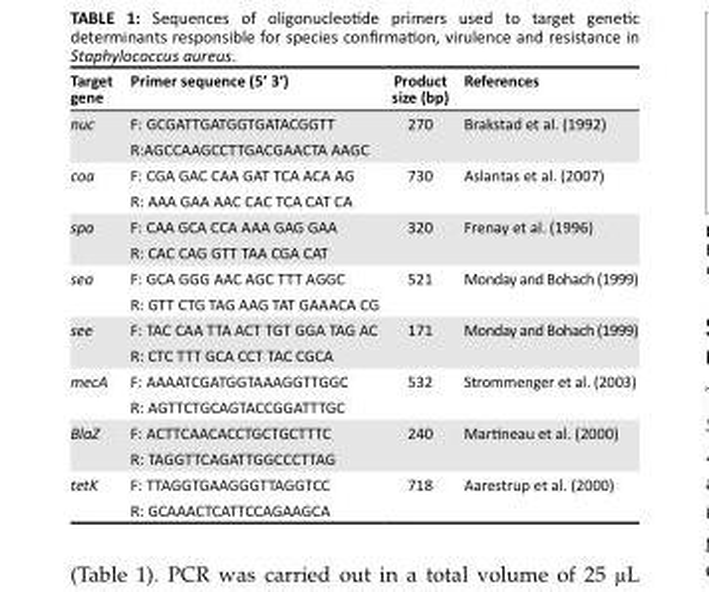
<table><thead><tr><td>Target gene</td><td>Primer sequence (5’ 3’)</td><td>Product size (bp)</td><td>References</td></tr></thead><tbody><tr><td rowspan="2">nuc</td><td>F: GCGATTGATGGTGATACGGTT</td><td rowspan="2">270</td><td rowspan="2">Brakstad et al. (1992)</td></tr><tr><td>R:AGCCAAGCCTTGACGAACTA AAGC</td></tr><tr><td rowspan="2">coa</td><td>F: CGA GAC CAA GAT TCA ACA AG</td><td rowspan="2">730</td><td rowspan="2">Aslantas et al. (2007)</td></tr><tr><td>R: AAA GAA AAC CAC TCA CAT CA</td></tr><tr><td rowspan="2">spa</td><td>F: CAA GCA CCA AAA GAG GAA</td><td rowspan="2">320</td><td rowspan="2">Frenay et al. (1996)</td></tr><tr><td>R: CAC CAG GTT TAA CGA CAT</td></tr><tr><td rowspan="2">sea</td><td>F: GCA GGG AAC AGC TTT AGGC</td><td rowspan="2">521</td><td rowspan="2">Monday and Bohach (1999)</td></tr><tr><td>R: GTT CTG TAG AAG TAT GAAACA CG</td></tr><tr><td rowspan="2">see</td><td>F: TAC CAA TTA ACT TGT GGA TAG AC</td><td rowspan="2">171</td><td rowspan="2">Monday and Bohach (1999)</td></tr><tr><td>R: CTC TTT GCA CCT TAC CGCA</td></tr><tr><td rowspan="2">mecA</td><td>F: AAAATCGATGGTAAAGGTTGGC</td><td rowspan="2">532</td><td rowspan="2">Strommenger et al. (2003)</td></tr><tr><td>R: AGTTCTGCAGTACCGGATTTGC</td></tr><tr><td rowspan="2">BlaZ</td><td>F: ACTTCAACACCTGCTGCTTTC</td><td rowspan="2">240</td><td rowspan="2">Martineau et al. (2000)</td></tr><tr><td>R: TAGGTTCAGATTGGCCCTTAG</td></tr><tr><td rowspan="2">tetK</td><td>F: TTAGGTGAAGGGTTAGGTCC</td><td>718</td><td>Aarestrup et al. (2000)</td></tr><tr><td>R: GCAAACTCATTCCAGAAGCA</td><td></td><td></td></tr></tbody></table>